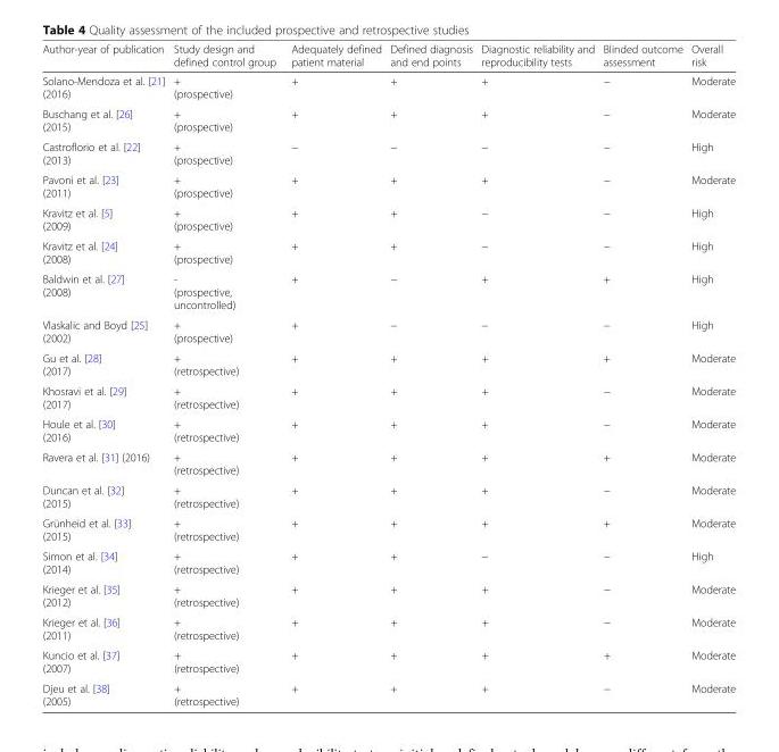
<table><thead><tr><td>Author-year of publication</td><td>Study design and defined control group</td><td>Adequately defined patient material</td><td>Defined diagnosis and end points</td><td>Diagnostic reliability and reproducibility tests</td><td>Blinded outcome assessment</td><td>Overall risk</td></tr></thead><tbody><tr><td>Solano-Mendoza et al. [21] (2016)</td><td>+ (prospective)</td><td>+</td><td>+</td><td>+</td><td>−</td><td>Moderate</td></tr><tr><td>Buschang et al. [26] (2015)</td><td>+ (prospective)</td><td>+</td><td>+</td><td>+</td><td>−</td><td>Moderate</td></tr><tr><td>Castroflorio et al. [22] (2013)</td><td>+ (prospective)</td><td>−</td><td>−</td><td>−</td><td>−</td><td>High</td></tr><tr><td>Pavoni et al. [23] (2011)</td><td>+ (prospective)</td><td>+</td><td>+</td><td>+</td><td>−</td><td>Moderate</td></tr><tr><td>Kravitz et al. [5] (2009)</td><td>+ (prospective)</td><td>+</td><td>+</td><td>−</td><td>−</td><td>High</td></tr><tr><td>Kravitz et al. [24] (2008)</td><td>+ (prospective)</td><td>+</td><td>+</td><td>−</td><td>−</td><td>High</td></tr><tr><td>Baldwin et al. [27] (2008)</td><td>- (prospective, uncontrolled)</td><td>+</td><td>−</td><td>+</td><td>+</td><td>High</td></tr><tr><td>Vlaskalic and Boyd [25] (2002)</td><td>+ (prospective)</td><td>+</td><td>−</td><td>−</td><td>−</td><td>High</td></tr><tr><td>Gu et al. [28] (2017)</td><td>+ (retrospective)</td><td>+</td><td>+</td><td>+</td><td>+</td><td>Moderate</td></tr><tr><td>Khosravi et al. [29] (2017)</td><td>+ (retrospective)</td><td>+</td><td>+</td><td>+</td><td>−</td><td>Moderate</td></tr><tr><td>Houle et al. [30] (2016)</td><td>+ (retrospective)</td><td>+</td><td>+</td><td>+</td><td>−</td><td>Moderate</td></tr><tr><td>Ravera et al. [31] (2016)</td><td>+ (retrospective)</td><td>+</td><td>+</td><td>+</td><td>+</td><td>Moderate</td></tr><tr><td>Duncan et al. [32] (2015)</td><td>+ (retrospective)</td><td>+</td><td>+</td><td>+</td><td>−</td><td>Moderate</td></tr><tr><td>Grünheid et al. [33] (2015)</td><td>+ (retrospective)</td><td>+</td><td>+</td><td>+</td><td>+</td><td>Moderate</td></tr><tr><td>Simon et al. [34] (2014)</td><td>+ (retrospective)</td><td>+</td><td>+</td><td>−</td><td>−</td><td>High</td></tr><tr><td>Krieger et al. [35] (2012)</td><td>+ (retrospective)</td><td>+</td><td>+</td><td>+</td><td>−</td><td>Moderate</td></tr><tr><td>Krieger et al. [36] (2011)</td><td>+ (retrospective)</td><td>+</td><td>+</td><td>+</td><td>−</td><td>Moderate</td></tr><tr><td>Kuncio et al. [37] (2007)</td><td>+ (retrospective)</td><td>+</td><td>+</td><td>+</td><td>+</td><td>Moderate</td></tr><tr><td>Djeu et al. [38] (2005)</td><td>+ (retrospective)</td><td>+</td><td>+</td><td>+</td><td>−</td><td>Moderate</td></tr></tbody></table>